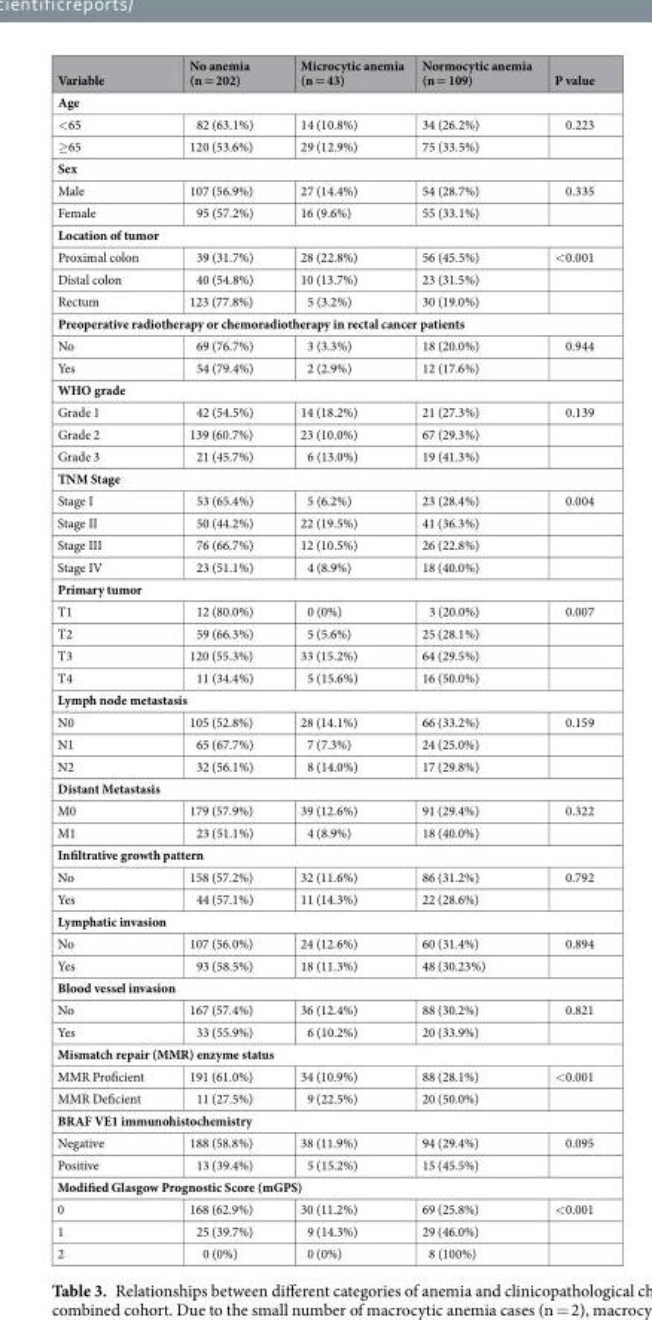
<table><thead><tr><td>Variable</td><td>No anemia (n = 202)</td><td>Microcytic anemia (n = 43)</td><td>Normocytic anemia (n = 109)</td><td>P value</td></tr></thead><tbody><tr><td colspan="5">Age</td></tr><tr><td>&lt;65</td><td>82 (63.1%)</td><td>14 (10.8%)</td><td>34 (26.2%)</td><td>0.223</td></tr><tr><td>≥65</td><td>120 (53.6%)</td><td>29 (12.9%)</td><td>75 (33.5%)</td><td></td></tr><tr><td colspan="5">Sex</td></tr><tr><td>Male</td><td>107 (56.9%)</td><td>27 (14.4%)</td><td>54 (28.7%)</td><td>0.335</td></tr><tr><td>Female</td><td>95 (57.2%)</td><td>16 (9.6%)</td><td>55 (33.1%)</td><td></td></tr><tr><td colspan="5">Location of tumor</td></tr><tr><td>Proximal colon</td><td>39 (31.7%)</td><td>28 (22.8%)</td><td>56 (45.5%)</td><td>&lt;0.001</td></tr><tr><td>Distal colon</td><td>40 (54.8%)</td><td>10 (13.7%)</td><td>23 (31.5%)</td><td></td></tr><tr><td>Rectum</td><td>123 (77.8%)</td><td>5 (3.2%)</td><td>30 (19.0%)</td><td></td></tr><tr><td colspan="5">Preoperative radiotherapy or chemoradiotherapy in rectal cancer patients</td></tr><tr><td>No</td><td>69 (76.7%)</td><td>3 (3.3%)</td><td>18 (20.0%)</td><td>0.944</td></tr><tr><td>Yes</td><td>54 (79.4%)</td><td>2 (2.9%)</td><td>12 (17.6%)</td><td></td></tr><tr><td colspan="5">WHO grade</td></tr><tr><td>Grade 1</td><td>42 (54.5%)</td><td>14 (18.2%)</td><td>21 (27.3%)</td><td>0.139</td></tr><tr><td>Grade 2</td><td>139 (60.7%)</td><td>23 (10.0%)</td><td>67 (29.3%)</td><td></td></tr><tr><td>Grade 3</td><td>21 (45.7%)</td><td>6 (13.0%)</td><td>19 (41.3%)</td><td></td></tr><tr><td colspan="5">TNM Stage</td></tr><tr><td>Stage I</td><td>53 (65.4%)</td><td>5 (6.2%)</td><td>23 (28.4%)</td><td>0.004</td></tr><tr><td>Stage II</td><td>50 (44.2%)</td><td>22 (19.5%)</td><td>41 (36.3%)</td><td></td></tr><tr><td>Stage III</td><td>76 (66.7%)</td><td>12 (10.5%)</td><td>26 (22.8%)</td><td></td></tr><tr><td>Stage IV</td><td>23 (51.1%)</td><td>4 (8.9%)</td><td>18 (40.0%)</td><td></td></tr><tr><td colspan="5">Primary tumor</td></tr><tr><td>T1</td><td>12 (80.0%)</td><td>0 (0%)</td><td>3 (20.0%)</td><td>0.007</td></tr><tr><td>T2</td><td>59 (66.3%)</td><td>5 (5.6%)</td><td>25 (28.1%)</td><td></td></tr><tr><td>T3</td><td>120 (55.3%)</td><td>33 (15.2%)</td><td>64 (29.5%)</td><td></td></tr><tr><td>T4</td><td>11 (34.4%)</td><td>5 (15.6%)</td><td>16 (50.0%)</td><td></td></tr><tr><td colspan="5">Lymph node metastasis</td></tr><tr><td>N0</td><td>105 (52.8%)</td><td>28 (14.1%)</td><td>66 (33.2%)</td><td>0.159</td></tr><tr><td>N1</td><td>65 (67.7%)</td><td>7 (7.3%)</td><td>24 (25.0%)</td><td></td></tr><tr><td>N2</td><td>32 (56.1%)</td><td>8 (14.0%)</td><td>17 (29.8%)</td><td></td></tr><tr><td colspan="5">Distant Metastasis</td></tr><tr><td>M0</td><td>179 (57.9%)</td><td>39 (12.6%)</td><td>91 (29.4%)</td><td>0.322</td></tr><tr><td>M1</td><td>23 (51.1%)</td><td>4 (8.9%)</td><td>18 (40.0%)</td><td></td></tr><tr><td colspan="5">Infiltrative growth pattern</td></tr><tr><td>No</td><td>158 (57.2%)</td><td>32 (11.6%)</td><td>86 (31.2%)</td><td>0.792</td></tr><tr><td>Yes</td><td>44 (57.1%)</td><td>11 (14.3%)</td><td>22 (28.6%)</td><td></td></tr><tr><td colspan="5">Lymphatic invasion</td></tr><tr><td>No</td><td>107 (56.0%)</td><td>24 (12.6%)</td><td>60 (31.4%)</td><td>0.894</td></tr><tr><td>Yes</td><td>93 (58.5%)</td><td>18 (11.3%)</td><td>48 (30.23%)</td><td></td></tr><tr><td colspan="5">Blood vessel invasion</td></tr><tr><td>No</td><td>167 (57.4%)</td><td>36 (12.4%)</td><td>88 (30.2%)</td><td>0.821</td></tr><tr><td>Yes</td><td>33 (55.9%)</td><td>6 (10.2%)</td><td>20 (33.9%)</td><td></td></tr><tr><td colspan="5">Mismatch repair (MMR) enzyme status</td></tr><tr><td>MMR Proficient</td><td>191 (61.0%)</td><td>34 (10.9%)</td><td>88 (28.1%)</td><td>&lt;0.001</td></tr><tr><td>MMR Deficient</td><td>11 (27.5%)</td><td>9 (22.5%)</td><td>20 (50.0%)</td><td></td></tr><tr><td colspan="5">BRAF VE1 immunohistochemistry</td></tr><tr><td>Negative</td><td>188 (58.8%)</td><td>38 (11.9%)</td><td>94 (29.4%)</td><td>0.095</td></tr><tr><td>Positive</td><td>13 (39.4%)</td><td>5 (15.2%)</td><td>15 (45.5%)</td><td></td></tr><tr><td colspan="5">Modified Glasgow Prognostic Score (mGPS)</td></tr><tr><td>0</td><td>168 (62.9%)</td><td>30 (11.2%)</td><td>69 (25.8%)</td><td>&lt;0.001</td></tr><tr><td>1</td><td>25 (39.7%)</td><td>9 (14.3%)</td><td>29 (46.0%)</td><td></td></tr><tr><td>2</td><td>0 (0%)</td><td>0 (0%)</td><td>8 (100%)</td><td></td></tr></tbody></table>